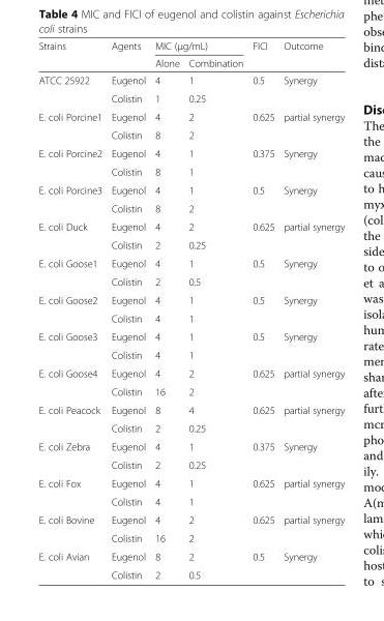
<table><thead><tr><td rowspan="2">Strains</td><td rowspan="2">Agents</td><td colspan="2">MIC (μg/mL)</td><td rowspan="2">FICI</td><td rowspan="2">Outcome</td></tr><tr><td>Alone</td><td>Combination</td></tr></thead><tbody><tr><td rowspan="2">ATCC 25922</td><td>Eugenol</td><td>4</td><td>1</td><td rowspan="2">0.5</td><td rowspan="2">Synergy</td></tr><tr><td>Colistin</td><td>1</td><td>0.25</td></tr><tr><td rowspan="2">E. coli Porcine1</td><td>Eugenol</td><td>4</td><td>2</td><td rowspan="2">0.625</td><td rowspan="2">partial synergy</td></tr><tr><td>Colistin</td><td>8</td><td>2</td></tr><tr><td rowspan="2">E. coli Porcine2</td><td>Eugenol</td><td>4</td><td>1</td><td rowspan="2">0.375</td><td rowspan="2">Synergy</td></tr><tr><td>Colistin</td><td>8</td><td>1</td></tr><tr><td rowspan="2">E. coli Porcine3</td><td>Eugenol</td><td>4</td><td>1</td><td rowspan="2">0.5</td><td rowspan="2">Synergy</td></tr><tr><td>Colistin</td><td>8</td><td>2</td></tr><tr><td rowspan="2">E. coli Duck</td><td>Eugenol</td><td>4</td><td>2</td><td rowspan="2">0.625</td><td rowspan="2">partial synergy</td></tr><tr><td>Colistin</td><td>2</td><td>0.25</td></tr><tr><td rowspan="2">E. coli Goose1</td><td>Eugenol</td><td>4</td><td>1</td><td rowspan="2">0.5</td><td rowspan="2">Synergy</td></tr><tr><td>Colistin</td><td>2</td><td>0.5</td></tr><tr><td rowspan="2">E. coli Goose2</td><td>Eugenol</td><td>4</td><td>1</td><td rowspan="2">0.5</td><td rowspan="2">Synergy</td></tr><tr><td>Colistin</td><td>4</td><td>1</td></tr><tr><td rowspan="2">E. coli Goose3</td><td>Eugenol</td><td>4</td><td>1</td><td rowspan="2">0.5</td><td rowspan="2">Synergy</td></tr><tr><td>Colistin</td><td>4</td><td>1</td></tr><tr><td rowspan="2">E. coli Goose4</td><td>Eugenol</td><td>4</td><td>2</td><td rowspan="2">0.625</td><td rowspan="2">partial synergy</td></tr><tr><td>Colistin</td><td>16</td><td>2</td></tr><tr><td rowspan="2">E. coli Peacock</td><td>Eugenol</td><td>8</td><td>4</td><td rowspan="2">0.625</td><td rowspan="2">partial synergy</td></tr><tr><td>Colistin</td><td>2</td><td>0.25</td></tr><tr><td rowspan="2">E. coli Zebra</td><td>Eugenol</td><td>4</td><td>1</td><td rowspan="2">0.375</td><td rowspan="2">Synergy</td></tr><tr><td>Colistin</td><td>2</td><td>0.25</td></tr><tr><td rowspan="2">E. coli Fox</td><td>Eugenol</td><td>4</td><td>1</td><td rowspan="2">0.625</td><td rowspan="2">partial synergy</td></tr><tr><td>Colistin</td><td>4</td><td>1</td></tr><tr><td rowspan="2">E. coli Bovine</td><td>Eugenol</td><td>4</td><td>2</td><td rowspan="2">0.625</td><td rowspan="2">partial synergy</td></tr><tr><td>Colistin</td><td>16</td><td>2</td></tr><tr><td rowspan="2">E. coli Avian</td><td>Eugenol</td><td>8</td><td>2</td><td rowspan="2">0.5</td><td rowspan="2">Synergy</td></tr><tr><td>Colistin</td><td>2</td><td>0.5</td></tr></tbody></table>